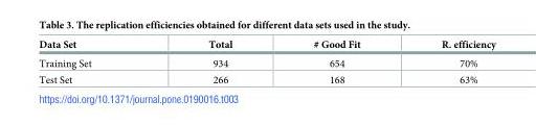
<table><thead><tr><td>Data Set</td><td>Total</td><td># Good Fit</td><td>R. efficiency</td></tr></thead><tbody><tr><td>Training Set</td><td>934</td><td>654</td><td>70%</td></tr><tr><td>Test Set</td><td>266</td><td>168</td><td>63%</td></tr></tbody></table>